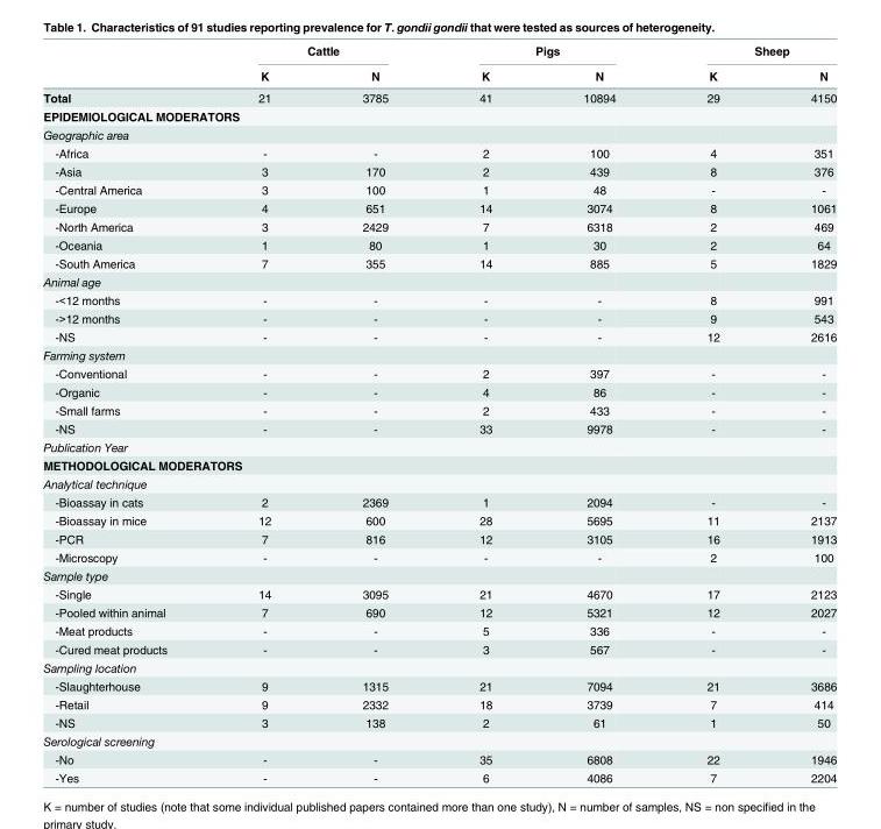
<table><thead><tr><td rowspan="2"></td><td colspan="2">Cattle</td><td colspan="2">Pigs</td><td colspan="2">Sheep</td></tr><tr><td>K</td><td>N</td><td>K</td><td>N</td><td>K</td><td>N</td></tr></thead><tbody><tr><td>Total</td><td>21</td><td>3785</td><td>41</td><td>10894</td><td>29</td><td>4150</td></tr><tr><td colspan="7">EPIDEMIOLOGICAL MODERATORS</td></tr><tr><td colspan="7">Geographic area</td></tr><tr><td>-Africa</td><td>-</td><td>-</td><td>2</td><td>100</td><td>4</td><td>351</td></tr><tr><td>-Asia</td><td>3</td><td>170</td><td>2</td><td>439</td><td>8</td><td>376</td></tr><tr><td>-Central America</td><td>3</td><td>100</td><td>1</td><td>48</td><td>-</td><td>-</td></tr><tr><td>-Europe</td><td>4</td><td>651</td><td>14</td><td>3074</td><td>8</td><td>1061</td></tr><tr><td>-North America</td><td>3</td><td>2429</td><td>7</td><td>6318</td><td>2</td><td>469</td></tr><tr><td>-Oceania</td><td>1</td><td>80</td><td>1</td><td>30</td><td>2</td><td>64</td></tr><tr><td>-South America</td><td>7</td><td>355</td><td>14</td><td>885</td><td>5</td><td>1829</td></tr><tr><td colspan="7">Animal age</td></tr><tr><td>-&lt;12 months</td><td>-</td><td>-</td><td>-</td><td>-</td><td>8</td><td>991</td></tr><tr><td>-&gt;12 months</td><td>-</td><td>-</td><td>-</td><td>-</td><td>9</td><td>543</td></tr><tr><td>-NS</td><td>-</td><td>-</td><td>-</td><td>-</td><td>12</td><td>2616</td></tr><tr><td colspan="7">Farming system</td></tr><tr><td>-Conventional</td><td>-</td><td>-</td><td>2</td><td>397</td><td>-</td><td>-</td></tr><tr><td>-Organic</td><td>-</td><td>-</td><td>4</td><td>86</td><td>-</td><td>-</td></tr><tr><td>-Small farms</td><td>-</td><td>-</td><td>2</td><td>433</td><td>-</td><td>-</td></tr><tr><td>-NS</td><td>-</td><td>-</td><td>33</td><td>9978</td><td>-</td><td>-</td></tr><tr><td colspan="7">Publication Year</td></tr><tr><td colspan="7">METHODOLOGICAL MODERATORS</td></tr><tr><td colspan="7">Analytical technique</td></tr><tr><td>-Bioassay in cats</td><td>2</td><td>2369</td><td>1</td><td>2094</td><td>-</td><td>-</td></tr><tr><td>-Bioassay in mice</td><td>12</td><td>600</td><td>28</td><td>5695</td><td>11</td><td>2137</td></tr><tr><td>-PCR</td><td>7</td><td>816</td><td>12</td><td>3105</td><td>16</td><td>1913</td></tr><tr><td>-Microscopy</td><td>-</td><td>-</td><td>-</td><td>-</td><td>2</td><td>100</td></tr><tr><td colspan="7">Sample type</td></tr><tr><td>-Single</td><td>14</td><td>3095</td><td>21</td><td>4670</td><td>17</td><td>2123</td></tr><tr><td>-Pooled within animal</td><td>7</td><td>690</td><td>12</td><td>5321</td><td>12</td><td>2027</td></tr><tr><td>-Meat products</td><td>-</td><td>-</td><td>5</td><td>336</td><td>-</td><td>-</td></tr><tr><td>-Cured meat products</td><td>-</td><td>-</td><td>3</td><td>567</td><td>-</td><td>-</td></tr><tr><td colspan="7">Sampling location</td></tr><tr><td>-Slaughterhouse</td><td>9</td><td>1315</td><td>21</td><td>7094</td><td>21</td><td>3686</td></tr><tr><td>-Retail</td><td>9</td><td>2332</td><td>18</td><td>3739</td><td>7</td><td>414</td></tr><tr><td>-NS</td><td>3</td><td>138</td><td>2</td><td>61</td><td>1</td><td>50</td></tr><tr><td colspan="7">Serological screening</td></tr><tr><td>-No</td><td>-</td><td>-</td><td>35</td><td>6808</td><td>22</td><td>1946</td></tr><tr><td>-Yes</td><td>-</td><td>-</td><td>6</td><td>4086</td><td>7</td><td>2204</td></tr></tbody></table>